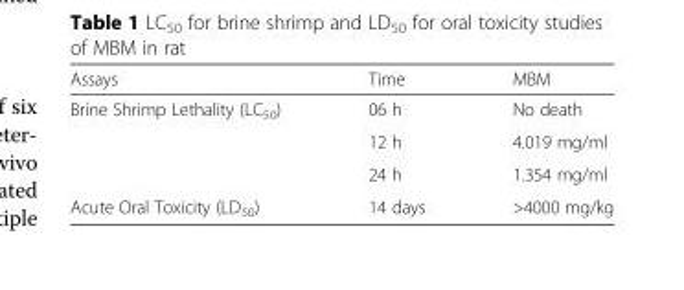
<table><thead><tr><td>Assays</td><td>Time</td><td>MBM</td></tr></thead><tbody><tr><td rowspan="3">Brine Shrimp Lethality (LC<sub>50</sub>)</td><td>06 h</td><td>No death</td></tr><tr><td>12 h</td><td>4.019 mg/ml</td></tr><tr><td>24 h</td><td>1.354 mg/ml</td></tr><tr><td>Acute Oral Toxicity (LD<sub>50</sub>)</td><td>14 days</td><td>&gt;4000 mg/kg</td></tr></tbody></table>